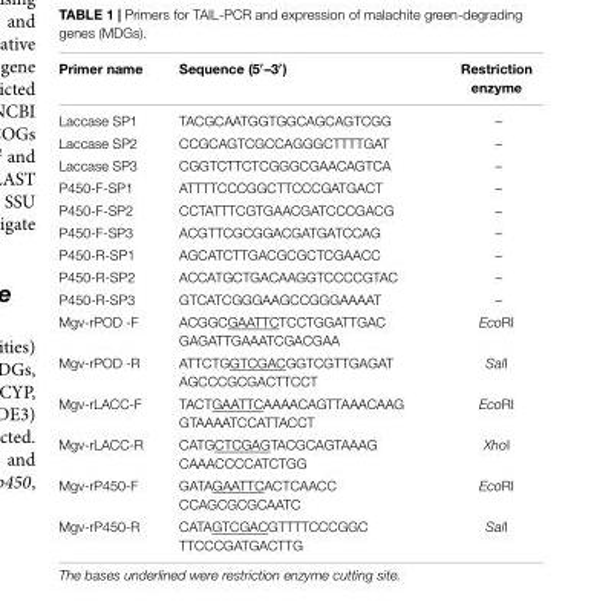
<table><thead><tr><td>Primer name</td><td>Sequence (5′–3′)</td><td>Restriction enzyme</td></tr></thead><tbody><tr><td>Laccase SP1</td><td>TACGCAATGGTGGCAGCAGTCGG</td><td>–</td></tr><tr><td>Laccase SP2</td><td>CCGCAGTCGCCAGGGCTTTTGAT</td><td>–</td></tr><tr><td>Laccase SP3</td><td>CGGTCTTCTCGGGCGAACAGTCA</td><td>–</td></tr><tr><td>P450-F-SP1</td><td>ATTTTCCCGGCTTCCCGATGACT</td><td>–</td></tr><tr><td>P450-F-SP2</td><td>CCTATTTCGTGAACGATCCCGACG</td><td>–</td></tr><tr><td>P450-F-SP3</td><td>ACGTTCGCGGACGATGATCCAG</td><td>–</td></tr><tr><td>P450-R-SP1</td><td>AGCATCTTGACGCGCTCGAACC</td><td>–</td></tr><tr><td>P450-R-SP2</td><td>ACCATGCTGACAAGGTCCCCGTAC</td><td>–</td></tr><tr><td>P450-R-SP3</td><td>GTCATCGGGAAGCCGGGAAAAT</td><td>–</td></tr><tr><td>Mgv-rPOD -F</td><td>ACGGCGAATTCTCCTGGATTGAC GAGATTGAAATCGACGAA</td><td>EcoRI</td></tr><tr><td>Mgv-rPOD -R</td><td>ATTCTGGTCGACGGTCGTTGAGAT AGCCCGCGACTTCCT</td><td>SalI</td></tr><tr><td>Mgv-rLACC-F</td><td>TACTGAATTCAAAACAGTTAAACAAG GTAAAATCCATTACCT</td><td>EcoRI</td></tr><tr><td>Mgv-rLACC-R</td><td>CATGCTCGAGTACGCAGTAAAG CAAACCCCATCTGG</td><td>XhoI</td></tr><tr><td>Mgv-rP450-F</td><td>GATAGAATTCACTCAACC CCAGCGCGCAATC</td><td>EcoRI</td></tr><tr><td>Mgv-rP450-R</td><td>CATAGTCGACGTTTTCCCGGC TTCCCGATGACTTG</td><td>SalI</td></tr></tbody></table>